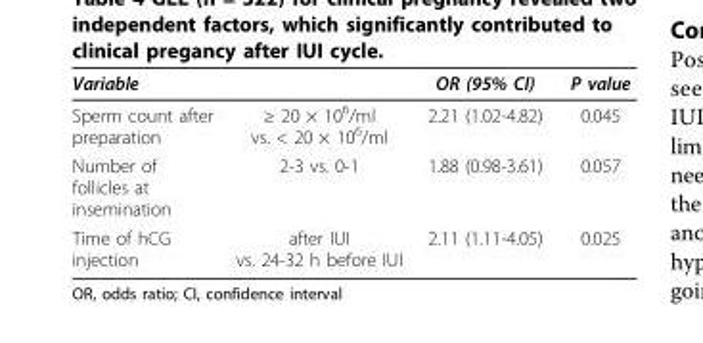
<table><thead><tr><td>Variable</td><td></td><td>OR (95% CI)</td><td>P value</td></tr></thead><tbody><tr><td>Sperm count after preparation</td><td>≥ 20 × 10<sup>6</sup>/ml vs. &lt; 20 × 10<sup>6</sup>/ml</td><td>2.21 (1.02-4.82)</td><td>0.045</td></tr><tr><td>Number of follicles at insemination</td><td>2-3 vs. 0-1</td><td>1.88 (0.98-3.61)</td><td>0.057</td></tr><tr><td>Time of hCG injection</td><td>after IUI vs. 24-32 h before IUI</td><td>2.11 (1.11-4.05)</td><td>0.025</td></tr></tbody></table>